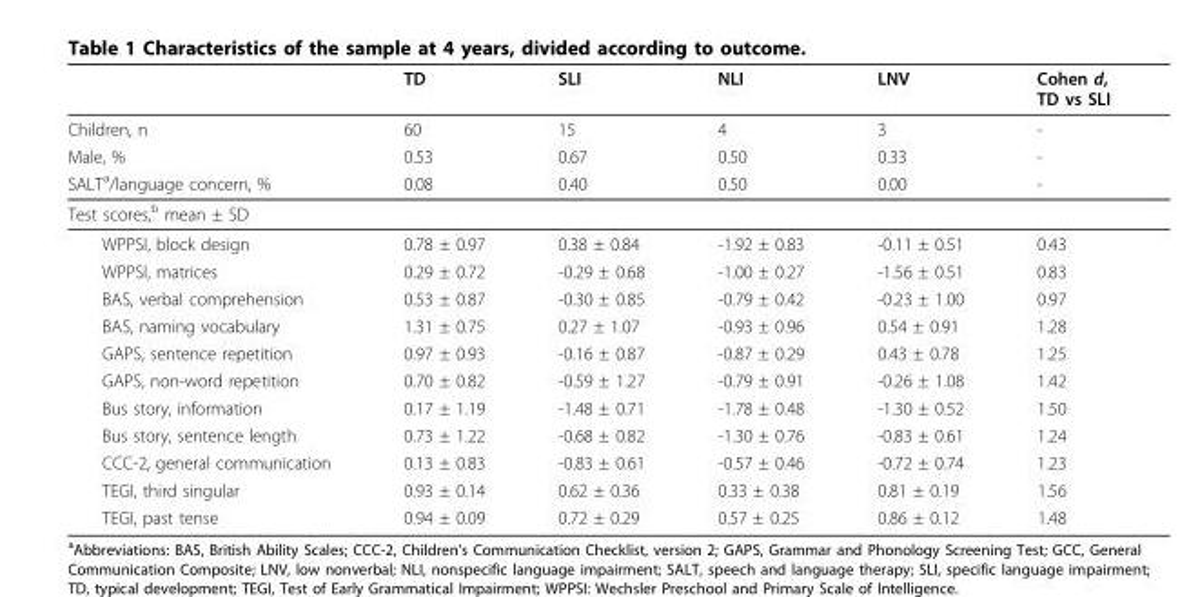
<table><thead><tr><td></td><td>TD</td><td>SLI</td><td>NLI</td><td>LNV</td><td>Cohen d, TD vs SLI</td></tr></thead><tbody><tr><td>Children, n</td><td>60</td><td>15</td><td>4</td><td>3</td><td>-</td></tr><tr><td>Male, %</td><td>0.53</td><td>0.67</td><td>0.50</td><td>0.33</td><td>-</td></tr><tr><td>SALT<sup>a</sup>/language concern, %</td><td>0.08</td><td>0.40</td><td>0.50</td><td>0.00</td><td>-</td></tr><tr><td colspan="6">Test scores,<sup>b</sup> mean ± SD</td></tr><tr><td>WPPSI, block design</td><td>0.78 ± 0.97</td><td>0.38 ± 0.84</td><td>-1.92 ± 0.83</td><td>-0.11 ± 0.51</td><td>0.43</td></tr><tr><td>WPPSI, matrices</td><td>0.29 ± 0.72</td><td>-0.29 ± 0.68</td><td>-1.00 ± 0.27</td><td>-1.56 ± 0.51</td><td>0.83</td></tr><tr><td>BAS, verbal comprehension</td><td>0.53 ± 0.87</td><td>-0.30 ± 0.85</td><td>-0.79 ± 0.42</td><td>-0.23 ± 1.00</td><td>0.97</td></tr><tr><td>BAS, naming vocabulary</td><td>1.31 ± 0.75</td><td>0.27 ± 1.07</td><td>-0.93 ± 0.96</td><td>0.54 ± 0.91</td><td>1.28</td></tr><tr><td>GAPS, sentence repetition</td><td>0.97 ± 0.93</td><td>-0.16 ± 0.87</td><td>-0.87 ± 0.29</td><td>0.43 ± 0.78</td><td>1.25</td></tr><tr><td>GAPS, non-word repetition</td><td>0.70 ± 0.82</td><td>-0.59 ± 1.27</td><td>-0.79 ± 0.91</td><td>-0.26 ± 1.08</td><td>1.42</td></tr><tr><td>Bus story, information</td><td>0.17 ± 1.19</td><td>-1.48 ± 0.71</td><td>-1.78 ± 0.48</td><td>-1.30 ± 0.52</td><td>1.50</td></tr><tr><td>Bus story, sentence length</td><td>0.73 ± 1.22</td><td>-0.68 ± 0.82</td><td>-1.30 ± 0.76</td><td>-0.83 ± 0.61</td><td>1.24</td></tr><tr><td>CCC-2, general communication</td><td>0.13 ± 0.83</td><td>-0.83 ± 0.61</td><td>-0.57 ± 0.46</td><td>-0.72 ± 0.74</td><td>1.23</td></tr><tr><td>TEGI, third singular</td><td>0.93 ± 0.14</td><td>0.62 ± 0.36</td><td>0.33 ± 0.38</td><td>0.81 ± 0.19</td><td>1.56</td></tr><tr><td>TEGI, past tense</td><td>0.94 ± 0.09</td><td>0.72 ± 0.29</td><td>0.57 ± 0.25</td><td>0.86 ± 0.12</td><td>1.48</td></tr></tbody></table>